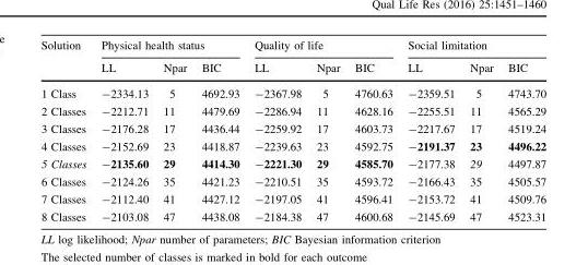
<table><thead><tr><td rowspan="2">Solution</td><td colspan="3">Physical health status</td><td colspan="3">Quality of life</td><td colspan="3">Social limitation</td></tr><tr><td>LL</td><td>Npar</td><td>BIC</td><td>LL</td><td>Npar</td><td>BIC</td><td>LL</td><td>Npar</td><td>BIC</td></tr></thead><tbody><tr><td>1 Class</td><td>-2334.13</td><td>5</td><td>4692.93</td><td>-2367.98</td><td>5</td><td>4760.63</td><td>-2359.51</td><td>5</td><td>4743.70</td></tr><tr><td>2 Classes</td><td>-2212.71</td><td>11</td><td>4479.69</td><td>-2286.94</td><td>11</td><td>4628.16</td><td>-2255.51</td><td>11</td><td>4565.29</td></tr><tr><td>3 Classes</td><td>-2176.28</td><td>17</td><td>4436.44</td><td>-2259.92</td><td>17</td><td>4603.73</td><td>-2217.67</td><td>17</td><td>4519.24</td></tr><tr><td>4 Classes</td><td>-2152.69</td><td>23</td><td>4418.87</td><td>-2239.63</td><td>23</td><td>4592.75</td><td>-2191.37</td><td>23</td><td>4496.22</td></tr><tr><td>5 Classes</td><td>-2135.60</td><td>29</td><td>4414.30</td><td>-2221.30</td><td>29</td><td>4585.70</td><td>-2177.38</td><td>29</td><td>4497.87</td></tr><tr><td>6 Classes</td><td>-2124.26</td><td>35</td><td>4421.23</td><td>-2210.51</td><td>35</td><td>4593.72</td><td>-2166.43</td><td>35</td><td>4505.57</td></tr><tr><td>7 Classes</td><td>-2112.40</td><td>41</td><td>4427.12</td><td>-2197.05</td><td>41</td><td>4596.41</td><td>-2153.72</td><td>41</td><td>4509.76</td></tr><tr><td>8 Classes</td><td>-2103.08</td><td>47</td><td>4438.08</td><td>-2184.38</td><td>47</td><td>4600.68</td><td>-2145.69</td><td>47</td><td>4523.31</td></tr></tbody></table>